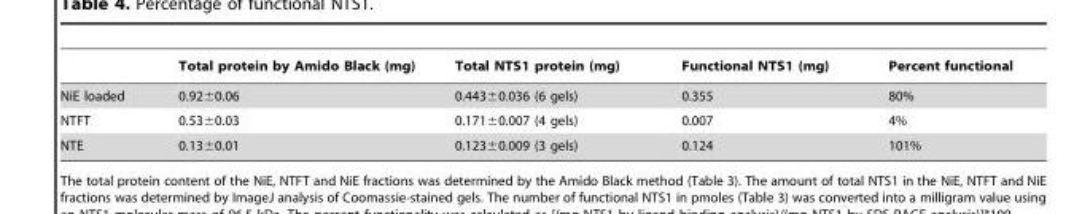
<table><thead><tr><td></td><td>Total protein by Amido Black (mg)</td><td>Total NTS1 protein (mg)</td><td>Functional NTS1 (mg)</td><td>Percent functional</td></tr></thead><tbody><tr><td>NiE loaded</td><td>0.92±0.06</td><td>0.443±0.036 (6 gels)</td><td>0.355</td><td>80%</td></tr><tr><td>NTFT</td><td>0.53±0.03</td><td>0.171±0.007 (4 gels)</td><td>0.007</td><td>4%</td></tr><tr><td>NTE</td><td>0.13±0.01</td><td>0.123±0.009 (3 gels)</td><td>0.124</td><td>101%</td></tr></tbody></table>